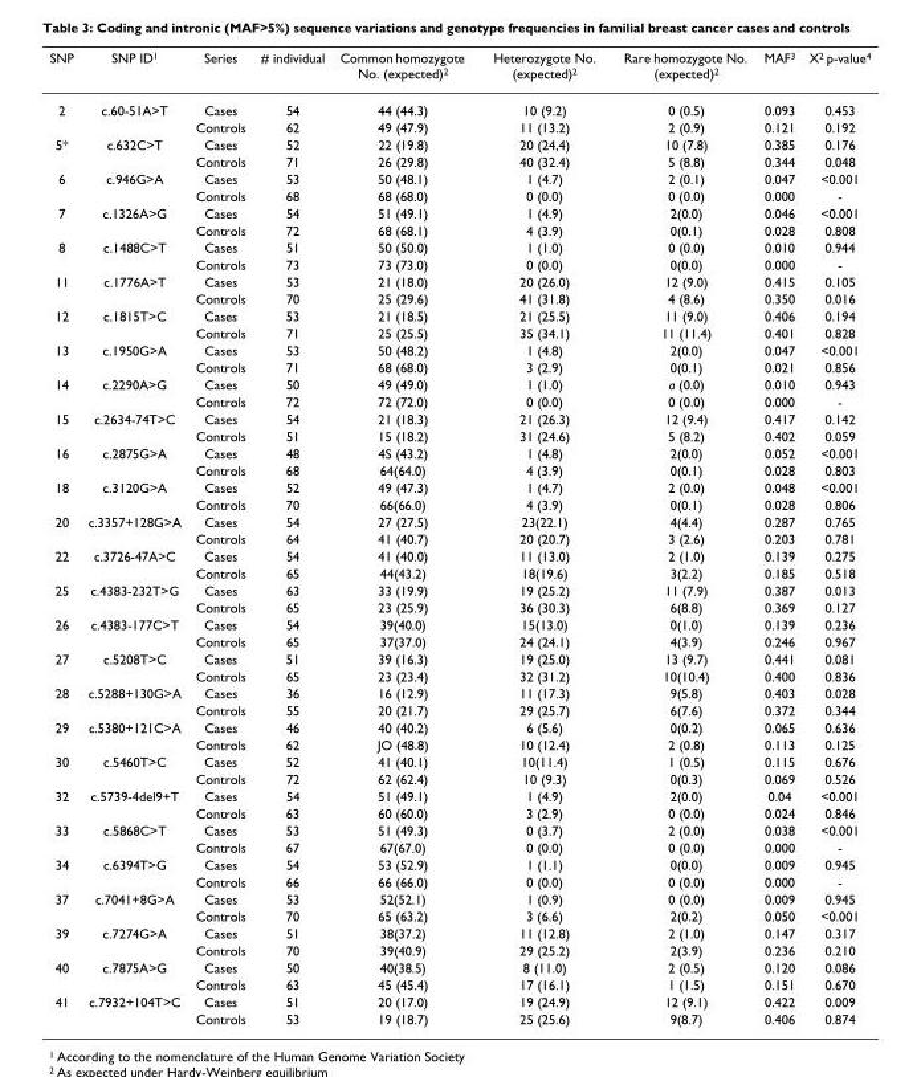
<table><thead><tr><td>SNP</td><td>SNP ID1</td><td>Series</td><td># individual</td><td>Common homozygote No. (expected)2</td><td>Heterozygote No. (expected)2</td><td>Rare homozygote No. (expected)2</td><td>MAF3</td><td>X2 p-value4</td></tr></thead><tbody><tr><td rowspan="2">2</td><td>c.60-51A&gt;T</td><td>Cases</td><td>54</td><td>44 (44.3)</td><td>10 (9.2)</td><td>0 (0.5)</td><td>0.093</td><td>0.453</td></tr><tr><td></td><td>Controls</td><td>62</td><td>49 (47.9)</td><td>11 (13.2)</td><td>2 (0.9)</td><td>0.121</td><td>0.192</td></tr><tr><td rowspan="2">5*</td><td>c.632C&gt;T</td><td>Cases</td><td>52</td><td>22 (19.8)</td><td>20 (24,4)</td><td>10 (7.8)</td><td>0.385</td><td>0.176</td></tr><tr><td></td><td>Controls</td><td>71</td><td>26 (29.8)</td><td>40 (32.4)</td><td>5 (8.8)</td><td>0.344</td><td>0.048</td></tr><tr><td rowspan="2">6</td><td>c.946G&gt;A</td><td>Cases</td><td>53</td><td>50 (48.1)</td><td>1 (4.7)</td><td>2 (0.1)</td><td>0.047</td><td>&lt;0.001</td></tr><tr><td></td><td>Controls</td><td>68</td><td>68 (68.0)</td><td>0 (0.0)</td><td>0 (0.0)</td><td>0.000</td><td>-</td></tr><tr><td rowspan="2">7</td><td>c.1326A&gt;G</td><td>Cases</td><td>54</td><td>51 (49.1)</td><td>1 (4.9)</td><td>2(0.0)</td><td>0.046</td><td>&lt;0.001</td></tr><tr><td></td><td>Controls</td><td>72</td><td>68 (68.1)</td><td>4 (3.9)</td><td>0(0.1)</td><td>0.028</td><td>0.808</td></tr><tr><td rowspan="2">8</td><td>c.1488C&gt;T</td><td>Cases</td><td>51</td><td>50 (50.0)</td><td>1 (1.0)</td><td>0 (0.0)</td><td>0.010</td><td>0.944</td></tr><tr><td></td><td>Controls</td><td>73</td><td>73 (73.0)</td><td>0 (0.0)</td><td>0(0.0)</td><td>0.000</td><td>-</td></tr><tr><td rowspan="2">11</td><td>c.1776A&gt;T</td><td>Cases</td><td>53</td><td>21 (18.0)</td><td>20 (26.0)</td><td>12 (9.0)</td><td>0.415</td><td>0.105</td></tr><tr><td></td><td>Controls</td><td>70</td><td>25 (29.6)</td><td>41 (31.8)</td><td>4 (8.6)</td><td>0.350</td><td>0.016</td></tr><tr><td rowspan="2">12</td><td>c.1815T&gt;C</td><td>Cases</td><td>53</td><td>21 (18.5)</td><td>21 (25.5)</td><td>11 (9.0)</td><td>0.406</td><td>0.194</td></tr><tr><td></td><td>Controls</td><td>71</td><td>25 (25.5)</td><td>35 (34.1)</td><td>11 (11.4)</td><td>0.401</td><td>0.828</td></tr><tr><td rowspan="2">13</td><td>c.1950G&gt;A</td><td>Cases</td><td>53</td><td>50 (48.2)</td><td>1 (4.8)</td><td>2(0.0)</td><td>0.047</td><td>&lt;0.001</td></tr><tr><td></td><td>Controls</td><td>71</td><td>68 (68.0)</td><td>3 (2.9)</td><td>0(0.1)</td><td>0.021</td><td>0.856</td></tr><tr><td rowspan="2">14</td><td>c.2290A&gt;G</td><td>Cases</td><td>50</td><td>49 (49.0)</td><td>1 (1.0)</td><td>a (0.0)</td><td>0.010</td><td>0.943</td></tr><tr><td></td><td>Controls</td><td>72</td><td>72 (72.0)</td><td>0 (0.0)</td><td>0 (0.0)</td><td>0.000</td><td>-</td></tr><tr><td rowspan="2">15</td><td>c.2634-74T&gt;C</td><td>Cases</td><td>54</td><td>21 (18.3)</td><td>21 (26.3)</td><td>12 (9.4)</td><td>0.417</td><td>0.142</td></tr><tr><td></td><td>Controls</td><td>51</td><td>15 (18.2)</td><td>31 (24.6)</td><td>5 (8.2)</td><td>0.402</td><td>0.059</td></tr><tr><td rowspan="2">16</td><td>c.2875G&gt;A</td><td>Cases</td><td>48</td><td>4S (43.2)</td><td>1 (4.8)</td><td>2(0.0)</td><td>0.052</td><td>&lt;0.001</td></tr><tr><td></td><td>Controls</td><td>68</td><td>64(64.0)</td><td>4 (3.9)</td><td>0(0.1)</td><td>0.028</td><td>0.803</td></tr><tr><td rowspan="2">18</td><td>c.3120G&gt;A</td><td>Cases</td><td>52</td><td>49 (47.3)</td><td>1 (4.7)</td><td>2 (0.0)</td><td>0.048</td><td>&lt;0.001</td></tr><tr><td></td><td>Controls</td><td>70</td><td>66(66.0)</td><td>4 (3.9)</td><td>0(0.1)</td><td>0.028</td><td>0.806</td></tr><tr><td rowspan="2">20</td><td>c.3357+128G&gt;A</td><td>Cases</td><td>54</td><td>27 (27.5)</td><td>23(22.1)</td><td>4(4.4)</td><td>0.287</td><td>0.765</td></tr><tr><td></td><td>Controls</td><td>64</td><td>41 (40.7)</td><td>20 (20.7)</td><td>3 (2.6)</td><td>0.203</td><td>0.781</td></tr><tr><td rowspan="2">22</td><td>c.3726-47A&gt;C</td><td>Cases</td><td>54</td><td>41 (40.0)</td><td>11 (13.0)</td><td>2 (1.0)</td><td>0.139</td><td>0.275</td></tr><tr><td></td><td>Controls</td><td>65</td><td>44(43.2)</td><td>18(19.6)</td><td>3(2.2)</td><td>0.185</td><td>0.518</td></tr><tr><td rowspan="2">25</td><td>c.4383-232T&gt;G</td><td>Cases</td><td>63</td><td>33 (19.9)</td><td>19 (25.2)</td><td>11 (7.9)</td><td>0.387</td><td>0.013</td></tr><tr><td></td><td>Controls</td><td>65</td><td>23 (25.9)</td><td>36 (30.3)</td><td>6(8.8)</td><td>0.369</td><td>0.127</td></tr><tr><td rowspan="2">26</td><td>c.4383-177C&gt;T</td><td>Cases</td><td>54</td><td>39(40.0)</td><td>15(13.0)</td><td>0(1.0)</td><td>0.139</td><td>0.236</td></tr><tr><td></td><td>Controls</td><td>65</td><td>37(37.0)</td><td>24 (24.1)</td><td>4(3.9)</td><td>0.246</td><td>0.967</td></tr><tr><td rowspan="2">27</td><td>c.5208T&gt;C</td><td>Cases</td><td>51</td><td>39 (16.3)</td><td>19 (25.0)</td><td>13 (9.7)</td><td>0.441</td><td>0.081</td></tr><tr><td></td><td>Controls</td><td>65</td><td>23 (23.4)</td><td>32 (31.2)</td><td>10(10.4)</td><td>0.400</td><td>0.836</td></tr><tr><td rowspan="2">28</td><td>c.5288+130G&gt;A</td><td>Cases</td><td>36</td><td>16 (12.9)</td><td>11 (17.3)</td><td>9(5.8)</td><td>0.403</td><td>0.028</td></tr><tr><td></td><td>Controls</td><td>55</td><td>20 (21.7)</td><td>29 (25.7)</td><td>6(7.6)</td><td>0.372</td><td>0.344</td></tr><tr><td rowspan="2">29</td><td>c.5380+121C&gt;A</td><td>Cases</td><td>46</td><td>40 (40.2)</td><td>6 (5.6)</td><td>0(0.2)</td><td>0.065</td><td>0.636</td></tr><tr><td></td><td>Controls</td><td>62</td><td>JO (48.8)</td><td>10 (12.4)</td><td>2 (0.8)</td><td>0.113</td><td>0.125</td></tr><tr><td rowspan="2">30</td><td>c.5460T&gt;C</td><td>Cases</td><td>52</td><td>41 (40.1)</td><td>10(11.4)</td><td>1 (0.5)</td><td>0.115</td><td>0.676</td></tr><tr><td></td><td>Controls</td><td>72</td><td>62 (62.4)</td><td>10 (9.3)</td><td>0(0.3)</td><td>0.069</td><td>0.526</td></tr><tr><td rowspan="2">32</td><td>c.5739-4del9+T</td><td>Cases</td><td>54</td><td>51 (49.1)</td><td>1 (4.9)</td><td>2(0.0)</td><td>0.04</td><td>&lt;0.001</td></tr><tr><td></td><td>Controls</td><td>63</td><td>60 (60.0)</td><td>3 (2.9)</td><td>0 (0.0)</td><td>0.024</td><td>0.846</td></tr><tr><td rowspan="2">33</td><td>c.5868C&gt;T</td><td>Cases</td><td>53</td><td>51 (49.3)</td><td>0 (3.7)</td><td>2 (0.0)</td><td>0.038</td><td>&lt;0.001</td></tr><tr><td></td><td>Controls</td><td>67</td><td>67(67.0)</td><td>0 (0.0)</td><td>0 (0.0)</td><td>0.000</td><td>-</td></tr><tr><td rowspan="2">34</td><td>c.6394T&gt;G</td><td>Cases</td><td>54</td><td>53 (52.9)</td><td>1 (1.1)</td><td>0(0.0)</td><td>0.009</td><td>0.945</td></tr><tr><td></td><td>Controls</td><td>66</td><td>66 (66.0)</td><td>0 (0.0)</td><td>0 (0.0)</td><td>0.000</td><td>-</td></tr><tr><td rowspan="2">37</td><td>c.7041+8G&gt;A</td><td>Cases</td><td>53</td><td>52(52.1)</td><td>1 (0.9)</td><td>0 (0.0)</td><td>0.009</td><td>0.945</td></tr><tr><td></td><td>Controls</td><td>70</td><td>65 (63.2)</td><td>3 (6.6)</td><td>2(0.2)</td><td>0.050</td><td>&lt;0.001</td></tr><tr><td rowspan="2">39</td><td>c.7274G&gt;A</td><td>Cases</td><td>51</td><td>38(37.2)</td><td>11 (12.8)</td><td>2 (1.0)</td><td>0.147</td><td>0.317</td></tr><tr><td></td><td>Controls</td><td>70</td><td>39(40.9)</td><td>29 (25.2)</td><td>2(3.9)</td><td>0.236</td><td>0.210</td></tr><tr><td rowspan="2">40</td><td>c.7875A&gt;G</td><td>Cases</td><td>50</td><td>40(38.5)</td><td>8 (11.0)</td><td>2 (0.5)</td><td>0.120</td><td>0.086</td></tr><tr><td></td><td>Controls</td><td>63</td><td>45 (45.4)</td><td>17 (16.1)</td><td>1 (1.5)</td><td>0.151</td><td>0.670</td></tr><tr><td rowspan="2">41</td><td>c.7932+104T&gt;C</td><td>Cases</td><td>51</td><td>20 (17.0)</td><td>19 (24.9)</td><td>12 (9.1)</td><td>0.422</td><td>0.009</td></tr><tr><td></td><td>Controls</td><td>53</td><td>19 (18.7)</td><td>25 (25.6)</td><td>9(8.7)</td><td>0.406</td><td>0.874</td></tr></tbody></table>